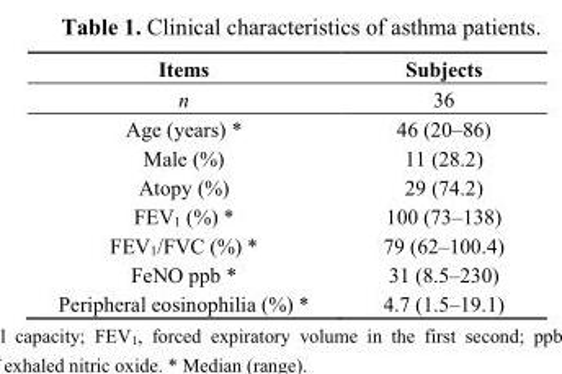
<table><thead><tr><td>Items</td><td>Subjects</td></tr></thead><tbody><tr><td>n</td><td>36</td></tr><tr><td>Age (years) *</td><td>46 (20–86)</td></tr><tr><td>Male (%)</td><td>11 (28.2)</td></tr><tr><td>Atopy (%)</td><td>29 (74.2)</td></tr><tr><td>FEV<sub>1</sub> (%) *</td><td>100 (73–138)</td></tr><tr><td>FEV<sub>1</sub>/FVC (%) *</td><td>79 (62–100.4)</td></tr><tr><td>FeNO ppb *</td><td>31 (8.5–230)</td></tr><tr><td>Peripheral eosinophilia (%) *</td><td>4.7 (1.5–19.1)</td></tr></tbody></table>